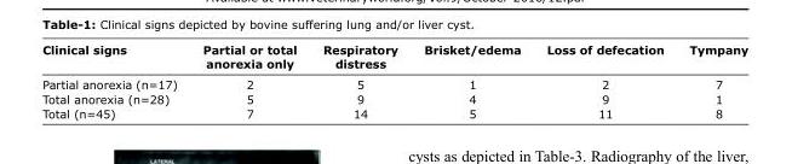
<table><thead><tr><td>Clinical signs</td><td>Partial or total anorexia only</td><td>Respiratory distress</td><td>Brisket/edema</td><td>Loss of defecation</td><td>Tympany</td></tr></thead><tbody><tr><td>Partial anorexia (n=17)</td><td>2</td><td>5</td><td>1</td><td>2</td><td>7</td></tr><tr><td>Total anorexia (n=28)</td><td>5</td><td>9</td><td>4</td><td>9</td><td>1</td></tr><tr><td>Total (n=45)</td><td>7</td><td>14</td><td>5</td><td>11</td><td>8</td></tr></tbody></table>